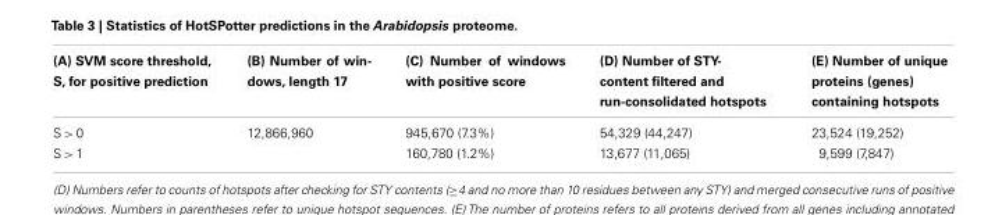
<table><thead><tr><td>(A) SVM score threshold, S, for positive prediction</td><td>(B) Number of win- dows, length 17</td><td>(C) Number of windows with positive score</td><td>(D) Number of STY- content filtered and run-consolidated hotspots</td><td>(E) Number of unique proteins (genes) containing hotspots</td></tr></thead><tbody><tr><td>S &gt; 0</td><td>12,866,960</td><td>945,670 (7.3%)</td><td>54,329 (44,247)</td><td>23,524 (19,252)</td></tr><tr><td>S &gt; 1</td><td></td><td>160,780 (1.2%)</td><td>13,677 (11,065)</td><td>9,599 (7,847)</td></tr></tbody></table>